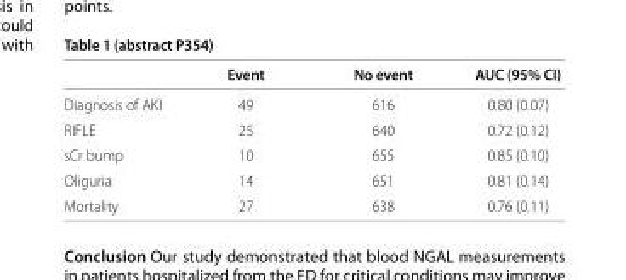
<table><thead><tr><td></td><td>Event</td><td>No event</td><td>AUC (95% CI)</td></tr></thead><tbody><tr><td>Diagnosis of AKI</td><td>49</td><td>616</td><td>0.80 (0.07)</td></tr><tr><td>RIFLE</td><td>25</td><td>640</td><td>0.72 (0.12)</td></tr><tr><td>sCr bump</td><td>10</td><td>655</td><td>0.85 (0.10)</td></tr><tr><td>Oliguria</td><td>14</td><td>651</td><td>0.81 (0.14)</td></tr><tr><td>Mortality</td><td>27</td><td>638</td><td>0.76 (0.11)</td></tr></tbody></table>